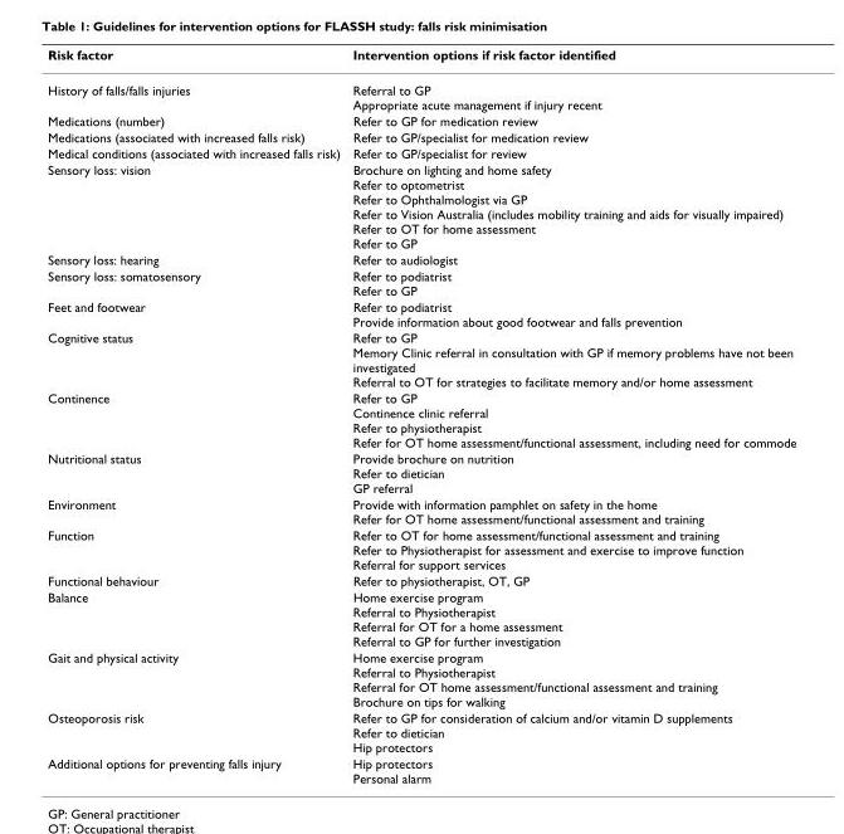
<table><thead><tr><td>Risk factor</td><td>Intervention options if risk factor identified</td></tr></thead><tbody><tr><td>History of falls/falls injuries</td><td>Referral to GP Appropriate acute management if injury recent</td></tr><tr><td>Medications (number)</td><td>Refer to GP for medication review</td></tr><tr><td>Medications (associated with increased falls risk)</td><td>Refer to GP/specialist for medication review</td></tr><tr><td>Medical conditions (associated with increased falls risk)</td><td>Refer to GP/specialist for review</td></tr><tr><td>Sensory loss: vision</td><td>Brochure on lighting and home safety Refer to optometrist Refer to Ophthalmologist via GP Refer to Vision Australia (includes mobility training and aids for visually impaired) Refer to OT for home assessment Refer to GP</td></tr><tr><td>Sensory loss: hearing</td><td>Refer to audiologist</td></tr><tr><td>Sensory loss: somatosensory</td><td>Refer to podiatrist Refer to GP</td></tr><tr><td>Feet and footwear</td><td>Refer to podiatrist Provide information about good footwear and falls prevention</td></tr><tr><td>Cognitive status</td><td>Refer to GP Memory Clinic referral in consultation with GP if memory problems have not been investigated Referral to OT for strategies to facilitate memory and/or home assessment</td></tr><tr><td>Continence</td><td>Refer to GP Continence clinic referral Refer to physiotherapist Refer for OT home assessment/functional assessment, including need for commode</td></tr><tr><td>Nutritional status</td><td>Provide brochure on nutrition Refer to dietician GP referral</td></tr><tr><td>Environment</td><td>Provide with information pamphlet on safety in the home Refer for OT home assessment/functional assessment and training</td></tr><tr><td>Function</td><td>Refer to OT for home assessment/functional assessment and training Refer to Physiotherapist for assessment and exercise to improve function Referral for support services</td></tr><tr><td>Functional behaviour</td><td>Refer to physiotherapist, OT, GP</td></tr><tr><td>Balance</td><td>Home exercise program Referral to Physiotherapist Referral for OT for a home assessment Referral to GP for further investigation</td></tr><tr><td>Gait and physical activity</td><td>Home exercise program Referral to Physiotherapist Referral for OT home assessment/functional assessment and training Brochure on tips for walking</td></tr><tr><td>Osteoporosis risk</td><td>Refer to GP for consideration of calcium and/or vitamin D supplements Refer to dietician Hip protectors</td></tr><tr><td>Additional options for preventing falls injury</td><td>Hip protectors Personal alarm</td></tr></tbody></table>